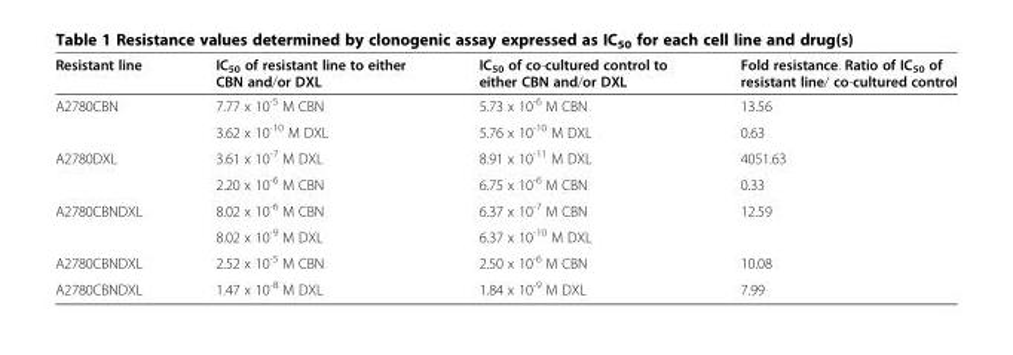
<table><thead><tr><td>Resistant line</td><td>IC<sub>50</sub> of resistant line to either CBN and/or DXL</td><td>IC<sub>50</sub> of co-cultured control to either CBN and/or DXL</td><td>Fold resistance. Ratio of IC<sub>50</sub> of resistant line/ co-cultured control</td></tr></thead><tbody><tr><td rowspan="2">A2780CBN</td><td>7.77 x 10<sup>-5</sup> M CBN</td><td>5.73 x 10<sup>-6</sup> M CBN</td><td>13.56</td></tr><tr><td>3.62 x 10<sup>-10</sup> M DXL</td><td>5.76 x 10<sup>-10</sup> M DXL</td><td>0.63</td></tr><tr><td rowspan="2">A2780DXL</td><td>3.61 x 10<sup>-7</sup> M DXL</td><td>8.91 x 10<sup>-11</sup> M DXL</td><td>4051.63</td></tr><tr><td>2.20 x 10<sup>-6</sup> M CBN</td><td>6.75 x 10<sup>-6</sup> M CBN</td><td>0.33</td></tr><tr><td rowspan="2">A2780CBNDXL</td><td>8.02 x 10<sup>-6</sup> M CBN</td><td>6.37 x 10<sup>-7</sup> M CBN</td><td>12.59</td></tr><tr><td>8.02 x 10<sup>-9</sup> M DXL</td><td>6.37 x 10<sup>-10</sup> M DXL</td><td></td></tr><tr><td>A2780CBNDXL</td><td>2.52 x 10<sup>-5</sup> M CBN</td><td>2.50 x 10<sup>-6</sup> M CBN</td><td>10.08</td></tr><tr><td>A2780CBNDXL</td><td>1.47 x 10<sup>-8</sup> M DXL</td><td>1.84 x 10<sup>-9</sup> M DXL</td><td>7.99</td></tr></tbody></table>